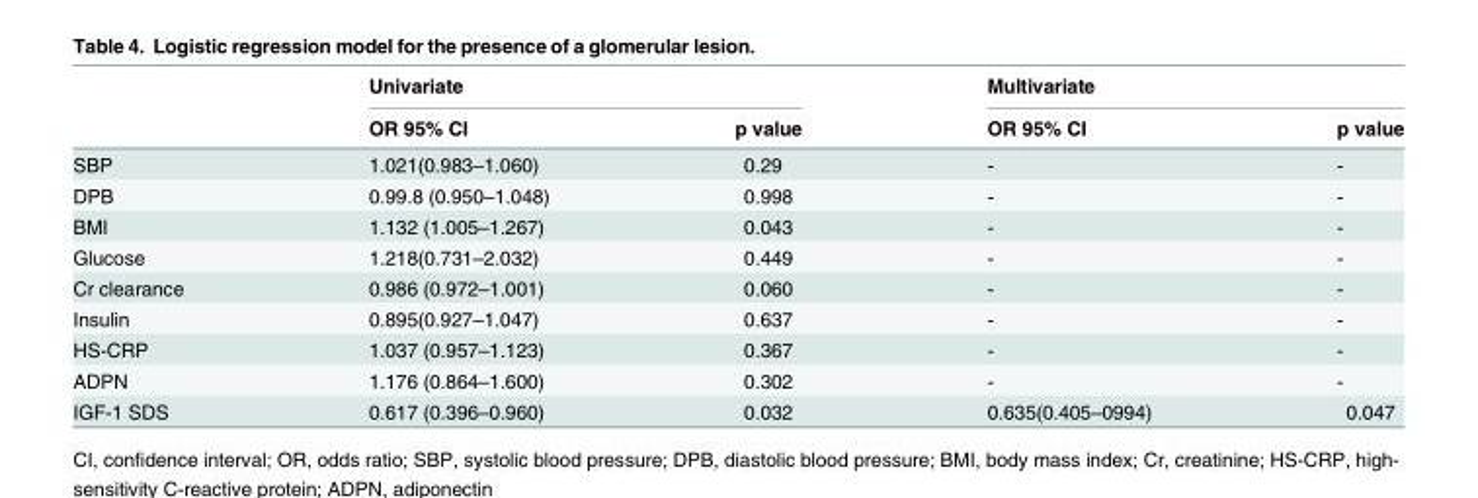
<table><thead><tr><td rowspan="2"></td><td colspan="2">Univariate</td><td colspan="2">Multivariate</td></tr><tr><td>OR 95% CI</td><td>p value</td><td>OR 95% CI</td><td>p value</td></tr></thead><tbody><tr><td>SBP</td><td>1.021(0.983–1.060)</td><td>0.29</td><td>-</td><td>-</td></tr><tr><td>DPB</td><td>0.99.8 (0.950–1.048)</td><td>0.998</td><td>-</td><td>-</td></tr><tr><td>BMI</td><td>1.132 (1.005–1.267)</td><td>0.043</td><td>-</td><td>-</td></tr><tr><td>Glucose</td><td>1.218(0.731–2.032)</td><td>0.449</td><td>-</td><td>-</td></tr><tr><td>Cr clearance</td><td>0.986 (0.972–1.001)</td><td>0.060</td><td>-</td><td>-</td></tr><tr><td>Insulin</td><td>0.895(0.927–1.047)</td><td>0.637</td><td>-</td><td>-</td></tr><tr><td>HS-CRP</td><td>1.037 (0.957–1.123)</td><td>0.367</td><td>-</td><td>-</td></tr><tr><td>ADPN</td><td>1.176 (0.864–1.600)</td><td>0.302</td><td>-</td><td>-</td></tr><tr><td>IGF-1 SDS</td><td>0.617 (0.396–0.960)</td><td>0.032</td><td>0.635(0.405–0994)</td><td>0.047</td></tr></tbody></table>